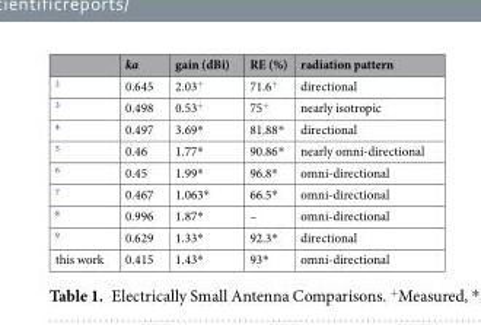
<table><thead><tr><td></td><td>ka</td><td>gain (dBi)</td><td>RE (%)</td><td>radiation pattern</td></tr></thead><tbody><tr><td><sup>2</sup></td><td>0.645</td><td>2.03<sup>+</sup></td><td>71.6<sup>+</sup></td><td>directional</td></tr><tr><td><sup>3</sup></td><td>0.498</td><td>0.53<sup>+</sup></td><td>75<sup>+</sup></td><td>nearly isotropic</td></tr><tr><td><sup>4</sup></td><td>0.497</td><td>3.69*</td><td>81.88*</td><td>directional</td></tr><tr><td><sup>5</sup></td><td>0.46</td><td>1.77*</td><td>90.86*</td><td>nearly omni-directional</td></tr><tr><td><sup>6</sup></td><td>0.45</td><td>1.99*</td><td>96.8*</td><td>omni-directional</td></tr><tr><td><sup>7</sup></td><td>0.467</td><td>1.063*</td><td>66.5*</td><td>omni-directional</td></tr><tr><td><sup>8</sup></td><td>0.996</td><td>1.87*</td><td>–</td><td>omni-directional</td></tr><tr><td><sup>9</sup></td><td>0.629</td><td>1.33*</td><td>92.3*</td><td>directional</td></tr><tr><td>this work</td><td>0.415</td><td>1.43*</td><td>93*</td><td>omni-directional</td></tr></tbody></table>